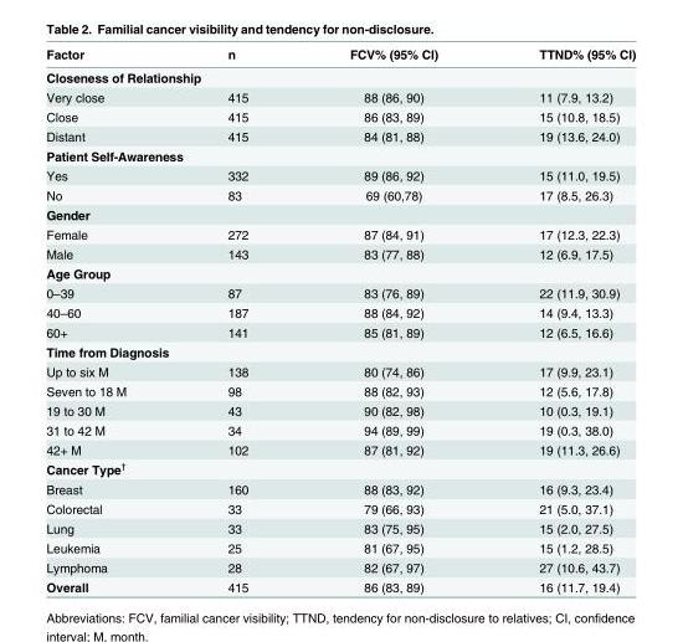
<table><thead><tr><td>Factor</td><td>n</td><td>FCV% (95% CI)</td><td>TTND% (95% CI)</td></tr></thead><tbody><tr><td colspan="4">Closeness of Relationship</td></tr><tr><td>Very close</td><td>415</td><td>88 (86, 90)</td><td>11 (7.9, 13.2)</td></tr><tr><td>Close</td><td>415</td><td>86 (83, 89)</td><td>15 (10.8, 18.5)</td></tr><tr><td>Distant</td><td>415</td><td>84 (81, 88)</td><td>19 (13.6, 24.0)</td></tr><tr><td colspan="4">Patient Self-Awareness</td></tr><tr><td>Yes</td><td>332</td><td>89 (86, 92)</td><td>15 (11.0, 19.5)</td></tr><tr><td>No</td><td>83</td><td>69 (60,78)</td><td>17 (8.5, 26.3)</td></tr><tr><td colspan="4">Gender</td></tr><tr><td>Female</td><td>272</td><td>87 (84, 91)</td><td>17 (12.3, 22.3)</td></tr><tr><td>Male</td><td>143</td><td>83 (77, 88)</td><td>12 (6.9, 17.5)</td></tr><tr><td colspan="4">Age Group</td></tr><tr><td>0–39</td><td>87</td><td>83 (76, 89)</td><td>22 (11.9, 30.9)</td></tr><tr><td>40–60</td><td>187</td><td>88 (84, 92)</td><td>14 (9.4, 13.3)</td></tr><tr><td>60+</td><td>141</td><td>85 (81, 89)</td><td>12 (6.5, 16.6)</td></tr><tr><td colspan="4">Time from Diagnosis</td></tr><tr><td>Up to six M</td><td>138</td><td>80 (74, 86)</td><td>17 (9.9, 23.1)</td></tr><tr><td>Seven to 18 M</td><td>98</td><td>88 (82, 93)</td><td>12 (5.6, 17.8)</td></tr><tr><td>19 to 30 M</td><td>43</td><td>90 (82, 98)</td><td>10 (0.3, 19.1)</td></tr><tr><td>31 to 42 M</td><td>34</td><td>94 (89, 99)</td><td>19 (0.3, 38.0)</td></tr><tr><td>42+ M</td><td>102</td><td>87 (81, 92)</td><td>19 (11.3, 26.6)</td></tr><tr><td colspan="4">Cancer Type<sup>†</sup></td></tr><tr><td>Breast</td><td>160</td><td>88 (83, 92)</td><td>16 (9.3, 23.4)</td></tr><tr><td>Colorectal</td><td>33</td><td>79 (66, 93)</td><td>21 (5.0, 37.1)</td></tr><tr><td>Lung</td><td>33</td><td>83 (75, 95)</td><td>15 (2.0, 27.5)</td></tr><tr><td>Leukemia</td><td>25</td><td>81 (67, 95)</td><td>15 (1.2, 28.5)</td></tr><tr><td>Lymphoma</td><td>28</td><td>82 (67, 97)</td><td>27 (10.6, 43.7)</td></tr><tr><td>Overall</td><td>415</td><td>86 (83, 89)</td><td>16 (11.7, 19.4)</td></tr></tbody></table>